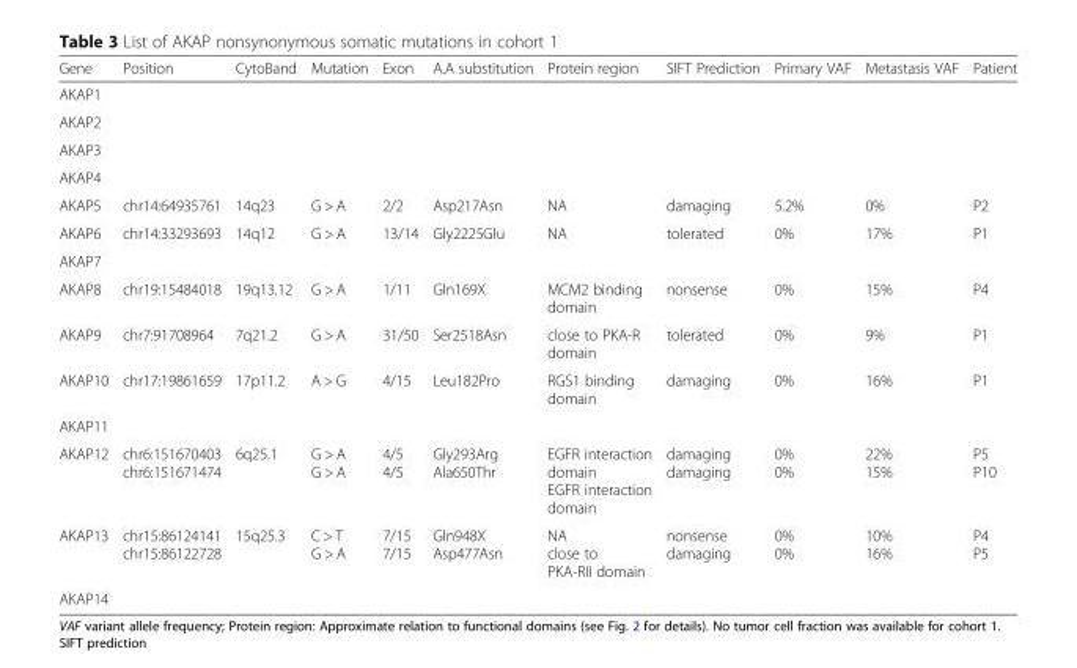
<table><thead><tr><td>Gene</td><td>Position</td><td>CytoBand</td><td>Mutation</td><td>Exon</td><td>A.A substitution</td><td>Protein region</td><td>SIFT Prediction</td><td>Primary VAF</td><td>Metastasis VAF</td><td>Patient</td></tr></thead><tbody><tr><td colspan="11">AKAP1</td></tr><tr><td colspan="11">AKAP2</td></tr><tr><td colspan="11">AKAP3</td></tr><tr><td colspan="11">AKAP4</td></tr><tr><td>AKAP5</td><td>chr14:64935761</td><td>14q23</td><td>G &gt; A</td><td>2/2</td><td>Asp217Asn</td><td>NA</td><td>damaging</td><td>5.2%</td><td>0%</td><td>P2</td></tr><tr><td>AKAP6</td><td>chr14:33293693</td><td>14q12</td><td>G &gt; A</td><td>13/14</td><td>Gly2225Glu</td><td>NA</td><td>tolerated</td><td>0%</td><td>17%</td><td>P1</td></tr><tr><td colspan="11">AKAP7</td></tr><tr><td>AKAP8</td><td>chr19:15484018</td><td>19q13.12</td><td>G &gt; A</td><td>1/11</td><td>Gln169X</td><td>MCM2 binding domain</td><td>nonsense</td><td>0%</td><td>15%</td><td>P4</td></tr><tr><td>AKAP9</td><td>chr7:91708964</td><td>7q21.2</td><td>G &gt; A</td><td>31/50</td><td>Ser2518Asn</td><td>close to PKA-R domain</td><td>tolerated</td><td>0%</td><td>9%</td><td>P1</td></tr><tr><td>AKAP10</td><td>chr17:19861659</td><td>17p11.2</td><td>A &gt; G</td><td>4/15</td><td>Leu182Pro</td><td>RGS1 binding domain</td><td>damaging</td><td>0%</td><td>16%</td><td>P1</td></tr><tr><td colspan="11">AKAP11</td></tr><tr><td>AKAP12</td><td>chr6:151670403 chr6:151671474</td><td>6q25.1</td><td>G &gt; A G &gt; A</td><td>4/5 4/5</td><td>Gly293Arg Ala650Thr</td><td>EGFR interaction domain EGFR interaction domain</td><td>damaging damaging</td><td>0% 0%</td><td>22% 15%</td><td>P5 P10</td></tr><tr><td>AKAP13</td><td>chr15:86124141 chr15:86122728</td><td>15q25.3</td><td>C &gt; T G &gt; A</td><td>7/15 7/15</td><td>Gln948X Asp477Asn</td><td>NA close to PKA-RII domain</td><td>nonsense damaging</td><td>0% 0%</td><td>10% 16%</td><td>P4 P5</td></tr><tr><td>AKAP14</td><td></td><td></td><td></td><td></td><td></td><td></td><td></td><td></td><td></td><td></td></tr></tbody></table>